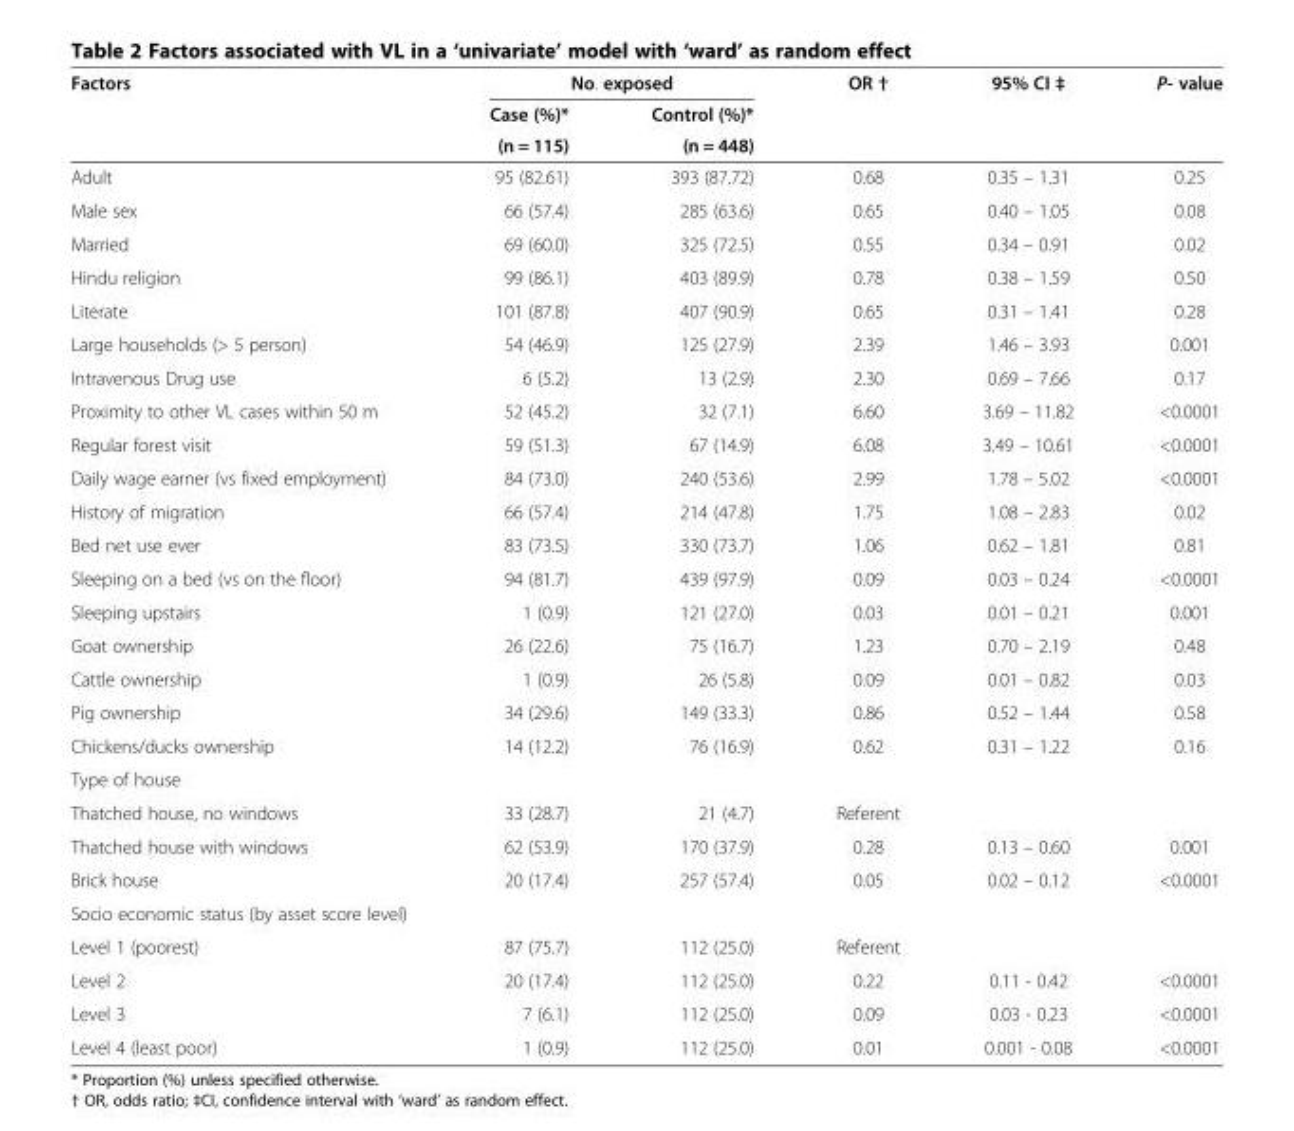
<table><thead><tr><td rowspan="3">Factors</td><td colspan="2">No. exposed</td><td rowspan="3">OR †</td><td rowspan="3">95% CI ‡</td><td rowspan="3">P- value</td></tr><tr><td rowspan="2">Case (%)* (n = 115)</td><td rowspan="2">Control (%)* (n = 448)</td></tr><tr></tr></thead><tbody><tr><td>Adult</td><td>95 (82.61)</td><td>393 (87.72)</td><td>0.68</td><td>0.35 – 1.31</td><td>0.25</td></tr><tr><td>Male sex</td><td>66 (57.4)</td><td>285 (63.6)</td><td>0.65</td><td>0.40 – 1.05</td><td>0.08</td></tr><tr><td>Married</td><td>69 (60.0)</td><td>325 (72.5)</td><td>0.55</td><td>0.34 – 0.91</td><td>0.02</td></tr><tr><td>Hindu religion</td><td>99 (86.1)</td><td>403 (89.9)</td><td>0.78</td><td>0.38 – 1.59</td><td>0.50</td></tr><tr><td>Literate</td><td>101 (87.8)</td><td>407 (90.9)</td><td>0.65</td><td>0.31 – 1.41</td><td>0.28</td></tr><tr><td>Large households (&gt; 5 person)</td><td>54 (46.9)</td><td>125 (27.9)</td><td>2.39</td><td>1.46 – 3.93</td><td>0.001</td></tr><tr><td>Intravenous Drug use</td><td>6 (5.2)</td><td>13 (2.9)</td><td>2.30</td><td>0.69 – 7.66</td><td>0.17</td></tr><tr><td>Proximity to other VL cases within 50 m</td><td>52 (45.2)</td><td>32 (7.1)</td><td>6.60</td><td>3.69 – 11.82</td><td>&lt;0.0001</td></tr><tr><td>Regular forest visit</td><td>59 (51.3)</td><td>67 (14.9)</td><td>6.08</td><td>3.49 – 10.61</td><td>&lt;0.0001</td></tr><tr><td>Daily wage earner (vs fixed employment)</td><td>84 (73.0)</td><td>240 (53.6)</td><td>2.99</td><td>1.78 – 5.02</td><td>&lt;0.0001</td></tr><tr><td>History of migration</td><td>66 (57.4)</td><td>214 (47.8)</td><td>1.75</td><td>1.08 – 2.83</td><td>0.02</td></tr><tr><td>Bed net use ever</td><td>83 (73.5)</td><td>330 (73.7)</td><td>1.06</td><td>0.62 – 1.81</td><td>0.81</td></tr><tr><td>Sleeping on a bed (vs on the floor)</td><td>94 (81.7)</td><td>439 (97.9)</td><td>0.09</td><td>0.03 – 0.24</td><td>&lt;0.0001</td></tr><tr><td>Sleeping upstairs</td><td>1 (0.9)</td><td>121 (27.0)</td><td>0.03</td><td>0.01 – 0.21</td><td>0.001</td></tr><tr><td>Goat ownership</td><td>26 (22.6)</td><td>75 (16.7)</td><td>1.23</td><td>0.70 – 2.19</td><td>0.48</td></tr><tr><td>Cattle ownership</td><td>1 (0.9)</td><td>26 (5.8)</td><td>0.09</td><td>0.01 – 0.82</td><td>0.03</td></tr><tr><td>Pig ownership</td><td>34 (29.6)</td><td>149 (33.3)</td><td>0.86</td><td>0.52 – 1.44</td><td>0.58</td></tr><tr><td>Chickens/ducks ownership</td><td>14 (12.2)</td><td>76 (16.9)</td><td>0.62</td><td>0.31 – 1.22</td><td>0.16</td></tr><tr><td colspan="6">Type of house</td></tr><tr><td>Thatched house, no windows</td><td>33 (28.7)</td><td>21 (4.7)</td><td>Referent</td><td></td><td></td></tr><tr><td>Thatched house with windows</td><td>62 (53.9)</td><td>170 (37.9)</td><td>0.28</td><td>0.13 – 0.60</td><td>0.001</td></tr><tr><td>Brick house</td><td>20 (17.4)</td><td>257 (57.4)</td><td>0.05</td><td>0.02 – 0.12</td><td>&lt;0.0001</td></tr><tr><td colspan="6">Socio economic status (by asset score level)</td></tr><tr><td>Level 1 (poorest)</td><td>87 (75.7)</td><td>112 (25.0)</td><td>Referent</td><td></td><td></td></tr><tr><td>Level 2</td><td>20 (17.4)</td><td>112 (25.0)</td><td>0.22</td><td>0.11 - 0.42</td><td>&lt;0.0001</td></tr><tr><td>Level 3</td><td>7 (6.1)</td><td>112 (25.0)</td><td>0.09</td><td>0.03 - 0.23</td><td>&lt;0.0001</td></tr><tr><td>Level 4 (least poor)</td><td>1 (0.9)</td><td>112 (25.0)</td><td>0.01</td><td>0.001 - 0.08</td><td>&lt;0.0001</td></tr></tbody></table>